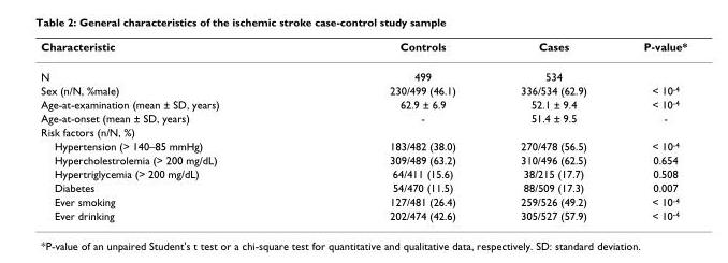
<table><thead><tr><td>Characteristic</td><td>Controls</td><td>Cases</td><td>P-value*</td></tr></thead><tbody><tr><td>N</td><td>499</td><td>534</td><td></td></tr><tr><td>Sex (n/N, %male)</td><td>230/499 (46.1)</td><td>336/534 (62.9)</td><td>&lt; 10<sup>-4</sup></td></tr><tr><td>Age-at-examination (mean ± SD, years)</td><td>62.9 ± 6.9</td><td>52.1 ± 9.4</td><td>&lt; 10<sup>-4</sup></td></tr><tr><td>Age-at-onset (mean ± SD, years)</td><td>-</td><td>51.4 ± 9.5</td><td>-</td></tr><tr><td colspan="4">Risk factors (n/N, %)</td></tr><tr><td>Hypertension (&gt; 140–85 mmHg)</td><td>183/482 (38.0)</td><td>270/478 (56.5)</td><td>&lt; 10<sup>-4</sup></td></tr><tr><td>Hypercholestrolemia (&gt; 200 mg/dL)</td><td>309/489 (63.2)</td><td>310/496 (62.5)</td><td>0.654</td></tr><tr><td>Hypertriglycemia (&gt; 200 mg/dL)</td><td>64/411 (15.6)</td><td>38/215 (17.7)</td><td>0.508</td></tr><tr><td>Diabetes</td><td>54/470 (11.5)</td><td>88/509 (17.3)</td><td>0.007</td></tr><tr><td>Ever smoking</td><td>127/481 (26.4)</td><td>259/526 (49.2)</td><td>&lt; 10<sup>-4</sup></td></tr><tr><td>Ever drinking</td><td>202/474 (42.6)</td><td>305/527 (57.9)</td><td>&lt; 10<sup>-4</sup></td></tr></tbody></table>